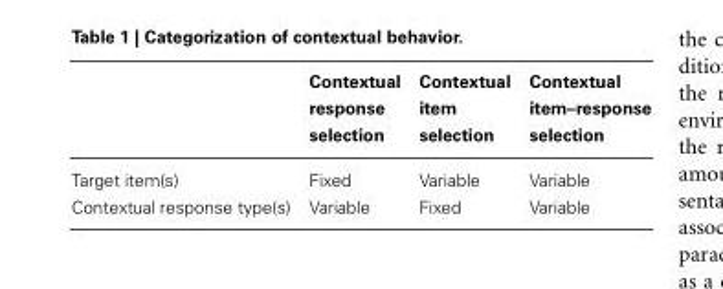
<table><thead><tr><td></td><td>Contextual response selection</td><td>Contextual item selection</td><td>Contextual item–response selection</td></tr></thead><tbody><tr><td>Target item(s)</td><td>Fixed</td><td>Variable</td><td>Variable</td></tr><tr><td>Contextual response type(s)</td><td>Variable</td><td>Fixed</td><td>Variable</td></tr></tbody></table>